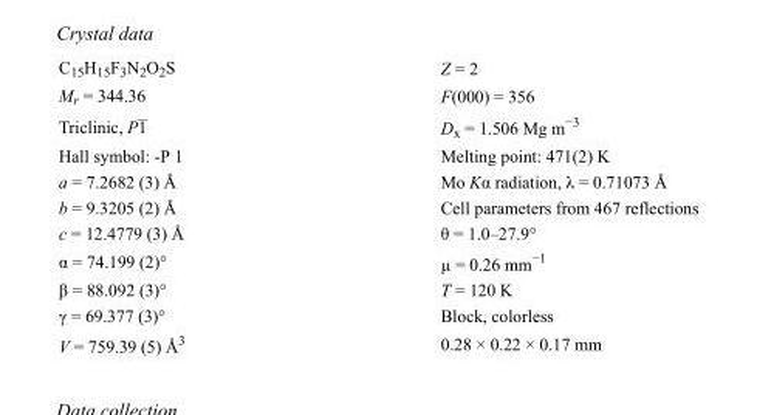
<table><tbody><tr><td>C<sub>15</sub>H<sub>15</sub>F<sub>3</sub>N<sub>2</sub>O<sub>2</sub>S</td><td>Z = 2</td></tr><tr><td>M<sub>r</sub> = 344.36</td><td>F(000) = 356</td></tr><tr><td>Triclinic, P1</td><td>D<sub>x</sub> = 1.506 Mg m<sup>−3</sup></td></tr><tr><td>Hall symbol: -P 1</td><td>Melting point: 471(2) K</td></tr><tr><td>a = 7.2682 (3) Å</td><td>Mo Kα radiation, λ = 0.71073 Å</td></tr><tr><td>b = 9.3205 (2) Å</td><td>Cell parameters from 467 reflections</td></tr><tr><td>c = 12.4779 (3) Å</td><td>θ = 1.0–27.9°</td></tr><tr><td>α = 74.199 (2)°</td><td>µ = 0.26 mm<sup>−1</sup></td></tr><tr><td>β = 88.092 (3)°</td><td>T = 120 K</td></tr><tr><td>γ = 69.377 (3)°</td><td>Block, colorless</td></tr><tr><td>V = 759.39 (5) Å<sup>3</sup></td><td>0.28 × 0.22 × 0.17 mm</td></tr></tbody></table>